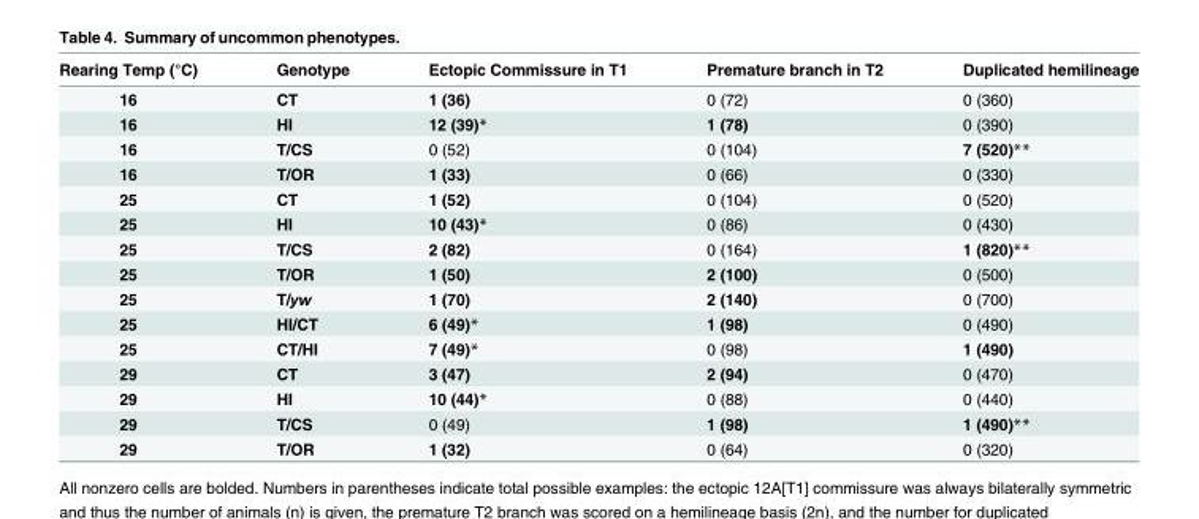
<table><thead><tr><td>Rearing Temp (°C)</td><td>Genotype</td><td>Ectopic Commissure in T1</td><td>Premature branch in T2</td><td>Duplicated hemilineage</td></tr></thead><tbody><tr><td>16</td><td>CT</td><td>1 (36)</td><td>0 (72)</td><td>0 (360)</td></tr><tr><td>16</td><td>HI</td><td>12 (39)*</td><td>1 (78)</td><td>0 (390)</td></tr><tr><td>16</td><td>T/CS</td><td>0 (52)</td><td>0 (104)</td><td>7 (520)**</td></tr><tr><td>16</td><td>T/OR</td><td>1 (33)</td><td>0 (66)</td><td>0 (330)</td></tr><tr><td>25</td><td>CT</td><td>1 (52)</td><td>0 (104)</td><td>0 (520)</td></tr><tr><td>25</td><td>HI</td><td>10 (43)*</td><td>0 (86)</td><td>0 (430)</td></tr><tr><td>25</td><td>T/CS</td><td>2 (82)</td><td>0 (164)</td><td>1 (820)**</td></tr><tr><td>25</td><td>T/OR</td><td>1 (50)</td><td>2 (100)</td><td>0 (500)</td></tr><tr><td>25</td><td>T/yw</td><td>1 (70)</td><td>2 (140)</td><td>0 (700)</td></tr><tr><td>25</td><td>HI/CT</td><td>6 (49)*</td><td>1 (98)</td><td>0 (490)</td></tr><tr><td>25</td><td>CT/HI</td><td>7 (49)*</td><td>0 (98)</td><td>1 (490)</td></tr><tr><td>29</td><td>CT</td><td>3 (47)</td><td>2 (94)</td><td>0 (470)</td></tr><tr><td>29</td><td>HI</td><td>10 (44)*</td><td>0 (88)</td><td>0 (440)</td></tr><tr><td>29</td><td>T/CS</td><td>0 (49)</td><td>1 (98)</td><td>1 (490)**</td></tr><tr><td>29</td><td>T/OR</td><td>1 (32)</td><td>0 (64)</td><td>0 (320)</td></tr></tbody></table>